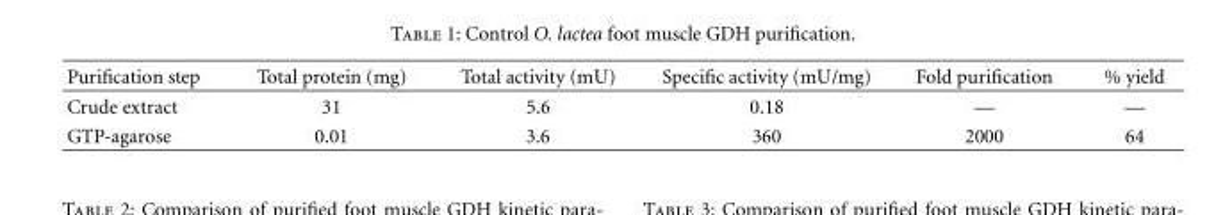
<table><thead><tr><td>Purification step</td><td>Total protein (mg)</td><td>Total activity (mU)</td><td>Specific activity (mU/mg)</td><td>Fold purification</td><td>% yield</td></tr></thead><tbody><tr><td>Crude extract</td><td>31</td><td>5.6</td><td>0.18</td><td>—</td><td>—</td></tr><tr><td>GTP-agarose</td><td>0.01</td><td>3.6</td><td>360</td><td>2000</td><td>64</td></tr></tbody></table>